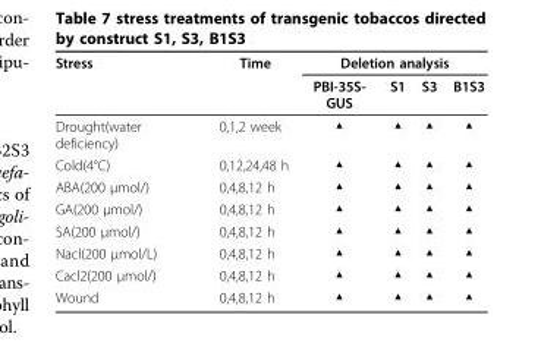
<table><thead><tr><td rowspan="2">Stress</td><td rowspan="2">Time</td><td colspan="4">Deletion analysis</td></tr><tr><td>PBI-35S- GUS</td><td>S1</td><td>S3</td><td>B1S3</td></tr></thead><tbody><tr><td>Drought(water deficiency)</td><td>0,1,2 week</td><td>▲</td><td>▲</td><td>▲</td><td>▲</td></tr><tr><td>Cold(4°C)</td><td>0,12,24,48 h</td><td>▲</td><td>▲</td><td>▲</td><td>▲</td></tr><tr><td>ABA(200 μmol/)</td><td>0,4,8,12 h</td><td>▲</td><td>▲</td><td>▲</td><td>▲</td></tr><tr><td>GA(200 μmol/)</td><td>0,4,8,12 h</td><td>▲</td><td>▲</td><td>▲</td><td>▲</td></tr><tr><td>SA(200 μmol/)</td><td>0,4,8,12 h</td><td>▲</td><td>▲</td><td>▲</td><td>▲</td></tr><tr><td>Nacl(200 μmol/L)</td><td>0,4,8,12 h</td><td>▲</td><td>▲</td><td>▲</td><td>▲</td></tr><tr><td>Cacl2(200 μmol/)</td><td>0,4,8,12 h</td><td>▲</td><td>▲</td><td>▲</td><td>▲</td></tr><tr><td>Wound</td><td>0,4,8,12 h</td><td>▲</td><td>▲</td><td>▲</td><td>▲</td></tr></tbody></table>